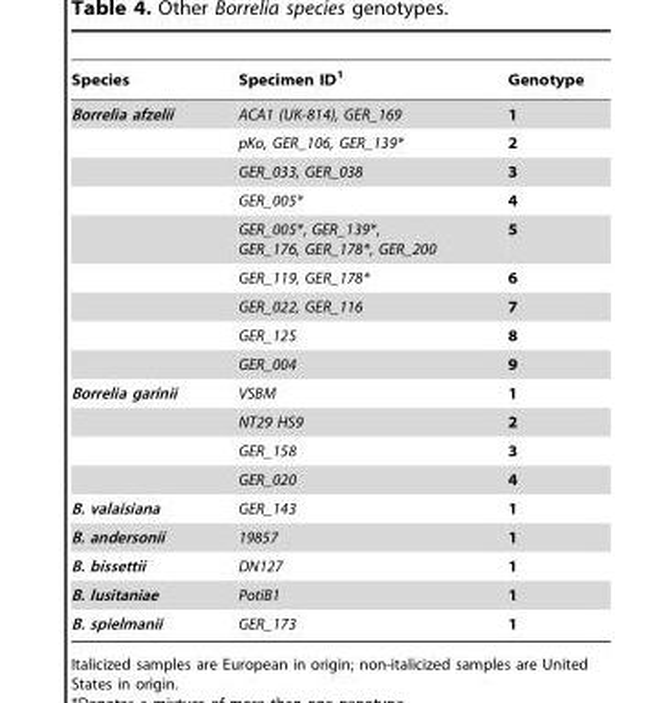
<table><thead><tr><td>Species</td><td>Specimen ID<sup>1</sup></td><td>Genotype</td></tr></thead><tbody><tr><td rowspan="9">Borrelia afzelii</td><td>ACA1 (UK-814), GER_169</td><td>1</td></tr><tr><td>pKo, GER_106, GER_139*</td><td>2</td></tr><tr><td>GER_033, GER_038</td><td>3</td></tr><tr><td>GER_005*</td><td>4</td></tr><tr><td>GER_005*, GER_139*, GER_176, GER_178*, GER_200</td><td>5</td></tr><tr><td>GER_119, GER_178*</td><td>6</td></tr><tr><td>GER_022, GER_116</td><td>7</td></tr><tr><td>GER_125</td><td>8</td></tr><tr><td>GER_004</td><td>9</td></tr><tr><td rowspan="4">Borrelia garinii</td><td>VSBM</td><td>1</td></tr><tr><td>NT29 HS9</td><td>2</td></tr><tr><td>GER_158</td><td>3</td></tr><tr><td>GER_020</td><td>4</td></tr><tr><td>B. valaisiana</td><td>GER_143</td><td>1</td></tr><tr><td>B. andersonii</td><td>19857</td><td>1</td></tr><tr><td>B. bissettii</td><td>DN127</td><td>1</td></tr><tr><td>B. lusitaniae</td><td>PotiB1</td><td>1</td></tr><tr><td>B. spielmanii</td><td>GER_173</td><td>1</td></tr></tbody></table>